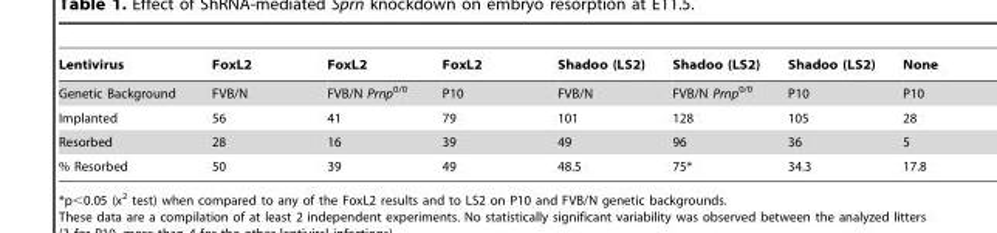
<table><thead><tr><td>Lentivirus</td><td>FoxL2</td><td>FoxL2</td><td>FoxL2</td><td>Shadoo (LS2)</td><td>Shadoo (LS2)</td><td>Shadoo (LS2)</td><td>None</td></tr></thead><tbody><tr><td>Genetic Background</td><td>FVB/N</td><td>FVB/N Prnp<sup>0/0</sup></td><td>P10</td><td>FVB/N</td><td>FVB/N Prnp<sup>0/0</sup></td><td>P10</td><td>P10</td></tr><tr><td>Implanted</td><td>56</td><td>41</td><td>79</td><td>101</td><td>128</td><td>105</td><td>28</td></tr><tr><td>Resorbed</td><td>28</td><td>16</td><td>39</td><td>49</td><td>96</td><td>36</td><td>5</td></tr><tr><td>% Resorbed</td><td>50</td><td>39</td><td>49</td><td>48.5</td><td>75*</td><td>34.3</td><td>17.8</td></tr></tbody></table>